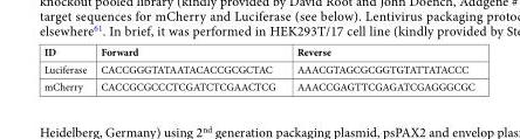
<table><thead><tr><td>ID</td><td>Forward</td><td>Reverse</td></tr></thead><tbody><tr><td>Luciferase</td><td>CACCGGGTATAATACACCGCGCTAC</td><td>AAACGTAGCGCGGTGTATTATACCC</td></tr><tr><td>mCherry</td><td>CACCGCGCCCTCGATCTCGAACTCG</td><td>AAACCGAGTTCGAGATCGAGGGCGC</td></tr></tbody></table>